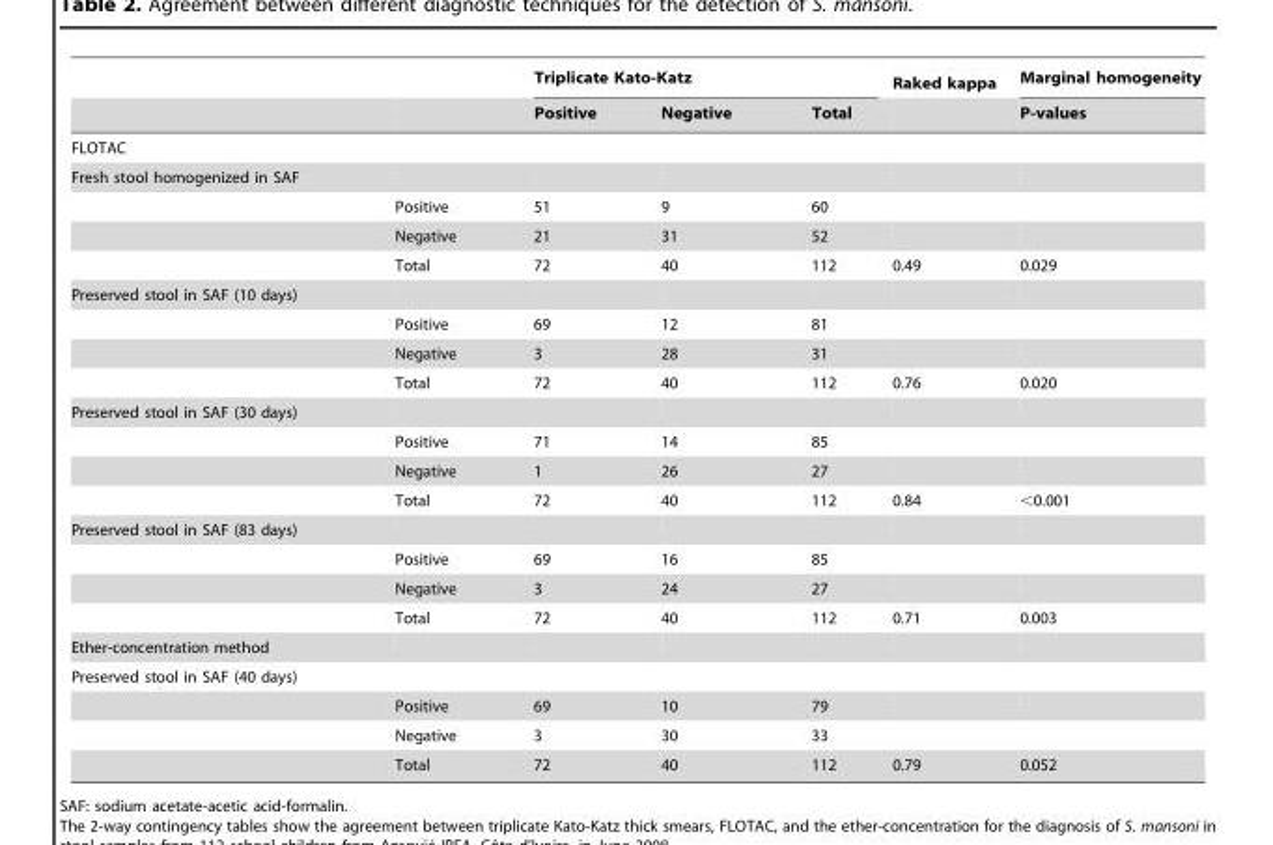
<table><thead><tr><td rowspan="2"></td><td rowspan="2"></td><td colspan="3">Triplicate Kato-Katz</td><td rowspan="2">Raked kappa</td><td rowspan="2">Marginal homogeneity P-values</td></tr><tr><td>Positive</td><td>Negative</td><td>Total</td></tr></thead><tbody><tr><td colspan="7">FLOTAC</td></tr><tr><td colspan="7">Fresh stool homogenized in SAF</td></tr><tr><td></td><td>Positive</td><td>51</td><td>9</td><td>60</td><td></td><td></td></tr><tr><td></td><td>Negative</td><td>21</td><td>31</td><td>52</td><td></td><td></td></tr><tr><td></td><td>Total</td><td>72</td><td>40</td><td>112</td><td>0.49</td><td>0.029</td></tr><tr><td colspan="7">Preserved stool in SAF (10 days)</td></tr><tr><td></td><td>Positive</td><td>69</td><td>12</td><td>81</td><td></td><td></td></tr><tr><td></td><td>Negative</td><td>3</td><td>28</td><td>31</td><td></td><td></td></tr><tr><td></td><td>Total</td><td>72</td><td>40</td><td>112</td><td>0.76</td><td>0.020</td></tr><tr><td colspan="7">Preserved stool in SAF (30 days)</td></tr><tr><td></td><td>Positive</td><td>71</td><td>14</td><td>85</td><td></td><td></td></tr><tr><td></td><td>Negative</td><td>1</td><td>26</td><td>27</td><td></td><td></td></tr><tr><td></td><td>Total</td><td>72</td><td>40</td><td>112</td><td>0.84</td><td>&lt;0.001</td></tr><tr><td colspan="7">Preserved stool in SAF (83 days)</td></tr><tr><td></td><td>Positive</td><td>69</td><td>16</td><td>85</td><td></td><td></td></tr><tr><td></td><td>Negative</td><td>3</td><td>24</td><td>27</td><td></td><td></td></tr><tr><td></td><td>Total</td><td>72</td><td>40</td><td>112</td><td>0.71</td><td>0.003</td></tr><tr><td colspan="7">Ether-concentration method</td></tr><tr><td colspan="7">Preserved stool in SAF (40 days)</td></tr><tr><td></td><td>Positive</td><td>69</td><td>10</td><td>79</td><td></td><td></td></tr><tr><td></td><td>Negative</td><td>3</td><td>30</td><td>33</td><td></td><td></td></tr><tr><td></td><td>Total</td><td>72</td><td>40</td><td>112</td><td>0.79</td><td>0.052</td></tr></tbody></table>